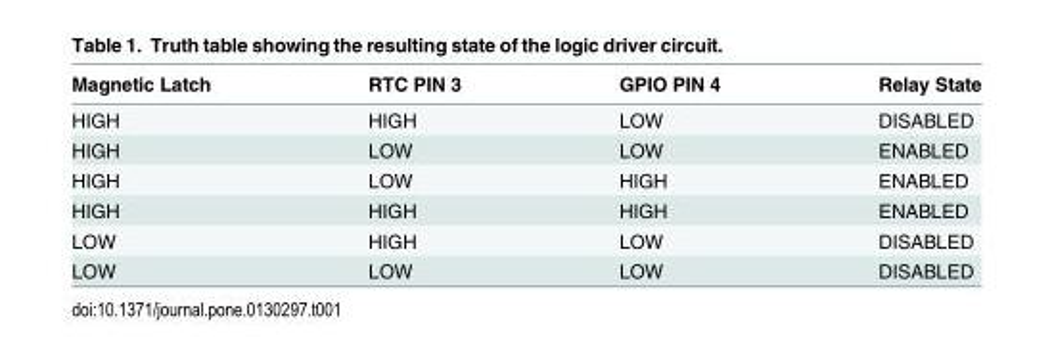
<table><thead><tr><td>Magnetic Latch</td><td>RTC PIN 3</td><td>GPIO PIN 4</td><td>Relay State</td></tr></thead><tbody><tr><td>HIGH</td><td>HIGH</td><td>LOW</td><td>DISABLED</td></tr><tr><td>HIGH</td><td>LOW</td><td>LOW</td><td>ENABLED</td></tr><tr><td>HIGH</td><td>LOW</td><td>HIGH</td><td>ENABLED</td></tr><tr><td>HIGH</td><td>HIGH</td><td>HIGH</td><td>ENABLED</td></tr><tr><td>LOW</td><td>HIGH</td><td>LOW</td><td>DISABLED</td></tr><tr><td>LOW</td><td>LOW</td><td>LOW</td><td>DISABLED</td></tr></tbody></table>